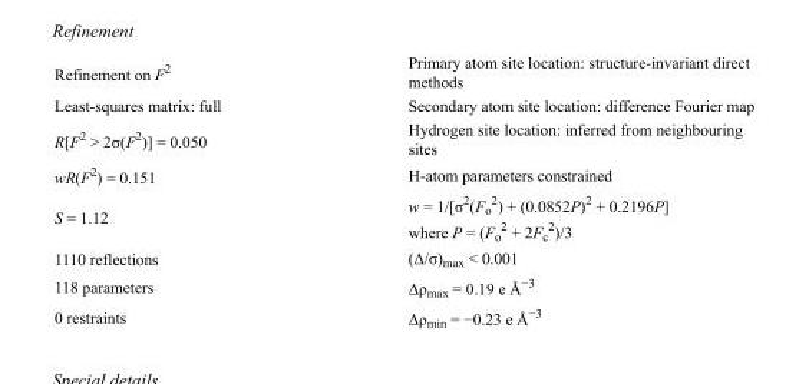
<table><tbody><tr><td>Refinement on F<sup>2</sup></td><td>Primary atom site location: structure-invariant direct methods</td></tr><tr><td>Least-squares matrix: full</td><td>Secondary atom site location: difference Fourier map</td></tr><tr><td>R[F<sup>2</sup> &gt; 2σ(F<sup>2</sup>)] = 0.050</td><td>Hydrogen site location: inferred from neighbouring sites</td></tr><tr><td>wR(F<sup>2</sup>) = 0.151</td><td>H-atom parameters constrained</td></tr><tr><td>S = 1.12</td><td>w = 1/[σ<sup>2</sup>(F<sub>o</sub> <sup>2</sup>) + (0.0852P)<sup>2</sup> + 0.2196P] where P = (F<sub>o</sub> <sup>2</sup> + 2F<sub>c</sub> <sup>2</sup>)/3</td></tr><tr><td>1110 reflections</td><td>(Δ/σ)<sub>max</sub> &lt; 0.001</td></tr><tr><td>118 parameters</td><td>Δρ<sub>max</sub> = 0.19 e Å<sup>−3</sup></td></tr><tr><td>0 restraints</td><td>Δρ<sub>min</sub> = −0.23 e Å<sup>−3</sup></td></tr></tbody></table>